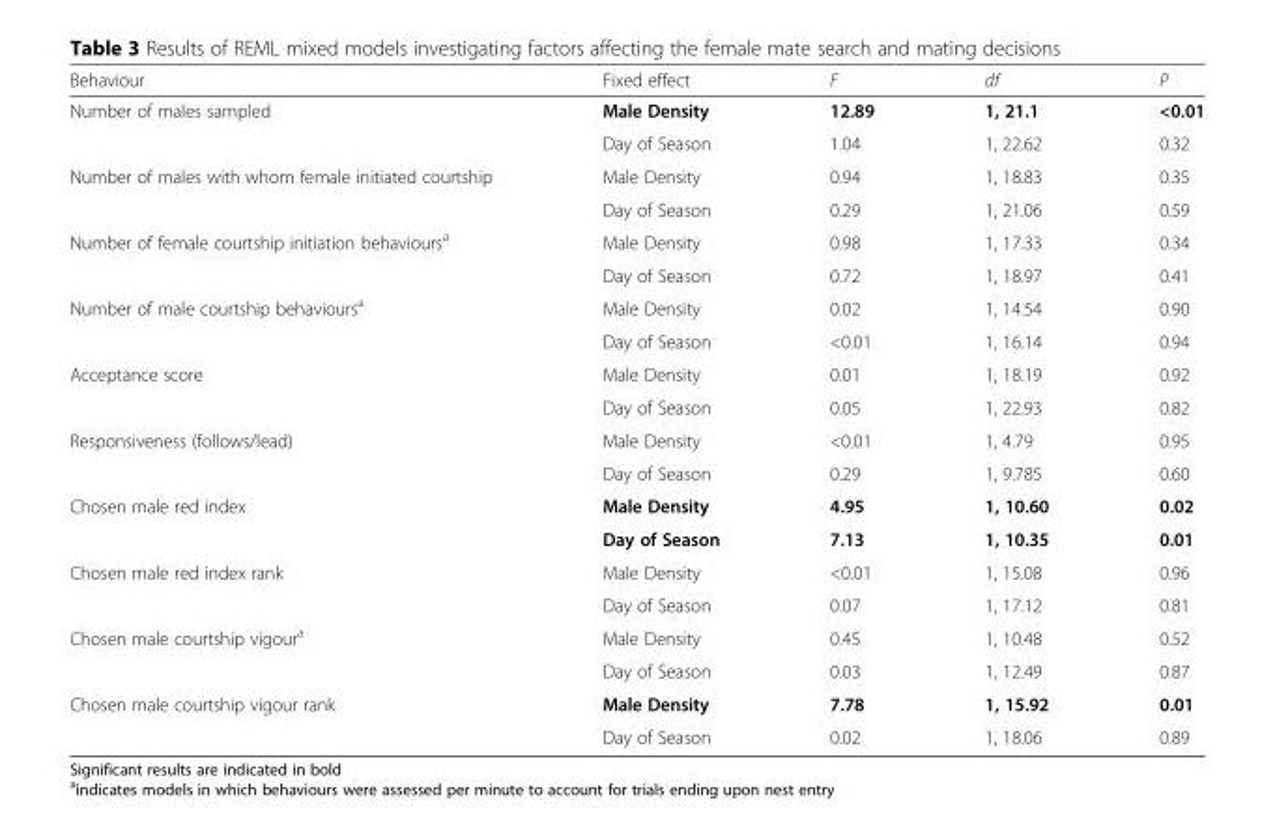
<table><thead><tr><td>Behaviour</td><td>Fixed effect</td><td>F</td><td>df</td><td>P</td></tr></thead><tbody><tr><td rowspan="2">Number of males sampled</td><td>Male Density</td><td>12.89</td><td>1, 21.1</td><td>&lt;0.01</td></tr><tr><td>Day of Season</td><td>1.04</td><td>1, 22.62</td><td>0.32</td></tr><tr><td rowspan="2">Number of males with whom female initiated courtship</td><td>Male Density</td><td>0.94</td><td>1, 18.83</td><td>0.35</td></tr><tr><td>Day of Season</td><td>0.29</td><td>1, 21.06</td><td>0.59</td></tr><tr><td rowspan="2">Number of female courtship initiation behaviours<sup>a</sup></td><td>Male Density</td><td>0.98</td><td>1, 17.33</td><td>0.34</td></tr><tr><td>Day of Season</td><td>0.72</td><td>1, 18.97</td><td>0.41</td></tr><tr><td rowspan="2">Number of male courtship behaviours<sup>a</sup></td><td>Male Density</td><td>0.02</td><td>1, 14.54</td><td>0.90</td></tr><tr><td>Day of Season</td><td>&lt;0.01</td><td>1, 16.14</td><td>0.94</td></tr><tr><td rowspan="2">Acceptance score</td><td>Male Density</td><td>0.01</td><td>1, 18.19</td><td>0.92</td></tr><tr><td>Day of Season</td><td>0.05</td><td>1, 22.93</td><td>0.82</td></tr><tr><td rowspan="2">Responsiveness (follows/lead)</td><td>Male Density</td><td>&lt;0.01</td><td>1, 4.79</td><td>0.95</td></tr><tr><td>Day of Season</td><td>0.29</td><td>1, 9.785</td><td>0.60</td></tr><tr><td rowspan="2">Chosen male red index</td><td>Male Density</td><td>4.95</td><td>1, 10.60</td><td>0.02</td></tr><tr><td>Day of Season</td><td>7.13</td><td>1, 10.35</td><td>0.01</td></tr><tr><td rowspan="2">Chosen male red index rank</td><td>Male Density</td><td>&lt;0.01</td><td>1, 15.08</td><td>0.96</td></tr><tr><td>Day of Season</td><td>0.07</td><td>1, 17.12</td><td>0.81</td></tr><tr><td rowspan="2">Chosen male courtship vigour<sup>a</sup></td><td>Male Density</td><td>0.45</td><td>1, 10.48</td><td>0.52</td></tr><tr><td>Day of Season</td><td>0.03</td><td>1, 12.49</td><td>0.87</td></tr><tr><td rowspan="2">Chosen male courtship vigour rank</td><td>Male Density</td><td>7.78</td><td>1, 15.92</td><td>0.01</td></tr><tr><td>Day of Season</td><td>0.02</td><td>1, 18.06</td><td>0.89</td></tr></tbody></table>